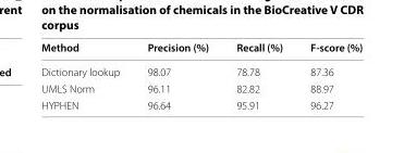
<table><thead><tr><td>Method</td><td>Precision (%)</td><td>Recall (%)</td><td>F‑score (%)</td></tr></thead><tbody><tr><td>Dictionary lookup</td><td>98.07</td><td>78.78</td><td>87.36</td></tr><tr><td>UMLS Norm</td><td>96.11</td><td>82.82</td><td>88.97</td></tr><tr><td>HYPHEN</td><td>96.64</td><td>95.91</td><td>96.27</td></tr></tbody></table>